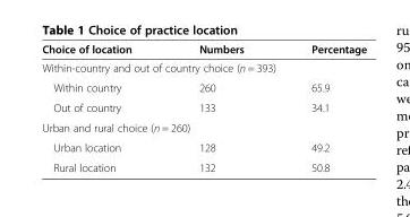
<table><thead><tr><td>Choice of location</td><td>Numbers</td><td>Percentage</td></tr></thead><tbody><tr><td colspan="3">Within-country and out of country choice (n = 393)</td></tr><tr><td>Within country</td><td>260</td><td>65.9</td></tr><tr><td>Out of country</td><td>133</td><td>34.1</td></tr><tr><td colspan="3">Urban and rural choice (n = 260)</td></tr><tr><td>Urban location</td><td>128</td><td>49.2</td></tr><tr><td>Rural location</td><td>132</td><td>50.8</td></tr></tbody></table>